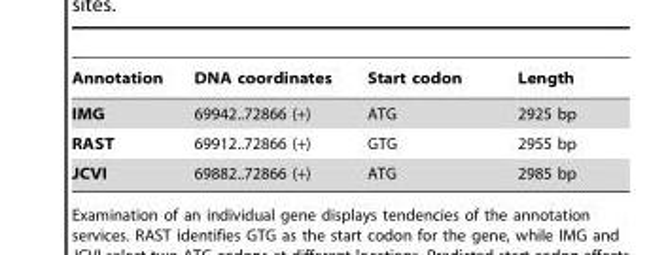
<table><thead><tr><td>Annotation</td><td>DNA coordinates</td><td>Start codon</td><td>Length</td></tr></thead><tbody><tr><td>IMG</td><td>69942..72866 (+)</td><td>ATG</td><td>2925 bp</td></tr><tr><td>RAST</td><td>69912..72866 (+)</td><td>GTG</td><td>2955 bp</td></tr><tr><td>JCVI</td><td>69882..72866 (+)</td><td>ATG</td><td>2985 bp</td></tr></tbody></table>